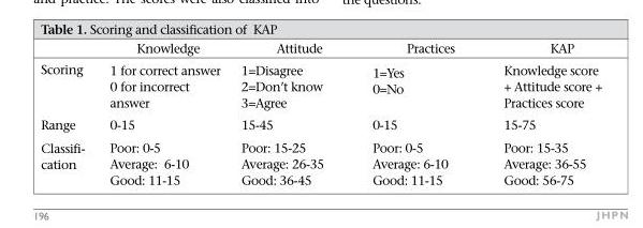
<table><thead><tr><td></td><td>Knowledge</td><td>Attitude</td><td>Practices</td><td>KAP</td></tr></thead><tbody><tr><td>Scoring</td><td>1 for correct answer 0 for incorrect answer</td><td>1=Disagree 2=Don’t know 3=Agree</td><td>1=Yes 0=No</td><td>Knowledge score + Attitude score + Practices score</td></tr><tr><td>Range</td><td>0-15</td><td>15-45</td><td>0-15</td><td>15-75</td></tr><tr><td>Classifi- cation</td><td>Poor: 0-5 Average: 6-10 Good: 11-15</td><td>Poor: 15-25 Average: 26-35 Good: 36-45</td><td>Poor: 0-5 Average: 6-10 Good: 11-15</td><td>Poor: 15-35 Average: 36-55 Good: 56-75</td></tr></tbody></table>